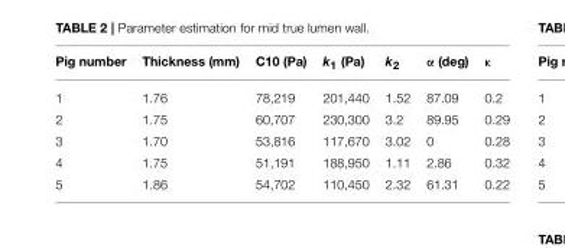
<table><thead><tr><td>Pig number</td><td>Thickness (mm)</td><td>C10 (Pa)</td><td>k<sub>1</sub> (Pa)</td><td>k<sub>2</sub></td><td>α (deg)</td><td>κ</td></tr></thead><tbody><tr><td>1</td><td>1.76</td><td>78,219</td><td>201,440</td><td>1.52</td><td>87.09</td><td>0.2</td></tr><tr><td>2</td><td>1.75</td><td>60,707</td><td>230,300</td><td>3.2</td><td>89.95</td><td>0.29</td></tr><tr><td>3</td><td>1.70</td><td>53,816</td><td>117,670</td><td>3.02</td><td>0</td><td>0.28</td></tr><tr><td>4</td><td>1.75</td><td>51,191</td><td>188,950</td><td>1.11</td><td>2.86</td><td>0.32</td></tr><tr><td>5</td><td>1.86</td><td>54,702</td><td>110,450</td><td>2.32</td><td>61.31</td><td>0.22</td></tr></tbody></table>